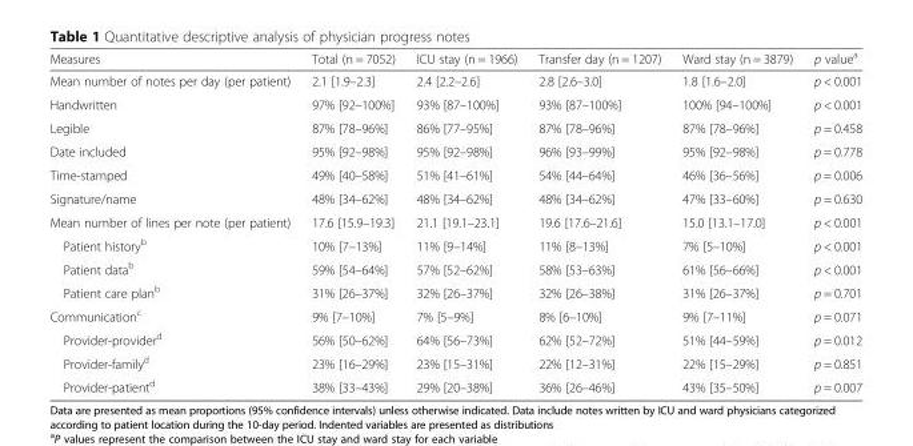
<table><thead><tr><td>Measures</td><td>Total (n = 7052)</td><td>ICU stay (n = 1966)</td><td>Transfer day (n = 1207)</td><td>Ward stay (n = 3879)</td><td>p value<sup>a</sup></td></tr></thead><tbody><tr><td>Mean number of notes per day (per patient)</td><td>2.1 [1.9–2.3]</td><td>2.4 [2.2–2.6]</td><td>2.8 [2.6–3.0]</td><td>1.8 [1.6–2.0]</td><td>p &lt; 0.001</td></tr><tr><td>Handwritten</td><td>97% [92–100%]</td><td>93% [87–100%]</td><td>93% [87–100%]</td><td>100% [94–100%]</td><td>p &lt; 0.001</td></tr><tr><td>Legible</td><td>87% [78–96%]</td><td>86% [77–95%]</td><td>87% [78–96%]</td><td>87% [78–96%]</td><td>p = 0.458</td></tr><tr><td>Date included</td><td>95% [92–98%]</td><td>95% [92–98%]</td><td>96% [93–99%]</td><td>95% [92–98%]</td><td>p = 0.778</td></tr><tr><td>Time-stamped</td><td>49% [40–58%]</td><td>51% [41–61%]</td><td>54% [44–64%]</td><td>46% [36–56%]</td><td>p = 0.006</td></tr><tr><td>Signature/name</td><td>48% [34–62%]</td><td>48% [34–62%]</td><td>48% [34–62%]</td><td>47% [33–60%]</td><td>p = 0.630</td></tr><tr><td>Mean number of lines per note (per patient)</td><td>17.6 [15.9–19.3]</td><td>21.1 [19.1–23.1]</td><td>19.6 [17.6–21.6]</td><td>15.0 [13.1–17.0]</td><td>p &lt; 0.001</td></tr><tr><td>Patient historyb</td><td>10% [7–13%]</td><td>11% [9–14%]</td><td>11% [8–13%]</td><td>7% [5–10%]</td><td>p &lt; 0.001</td></tr><tr><td>Patient datab</td><td>59% [54–64%]</td><td>57% [52–62%]</td><td>58% [53–63%]</td><td>61% [56–66%]</td><td>p &lt; 0.001</td></tr><tr><td>Patient care planb</td><td>31% [26–37%]</td><td>32% [26–37%]</td><td>32% [26–38%]</td><td>31% [26–37%]</td><td>p = 0.701</td></tr><tr><td>Communication<sup>c</sup></td><td>9% [7–10%]</td><td>7% [5–9%]</td><td>8% [6–10%]</td><td>9% [7–11%]</td><td>p = 0.071</td></tr><tr><td>Provider-providerd</td><td>56% [50–62%]</td><td>64% [56–73%]</td><td>62% [52–72%]</td><td>51% [44–59%]</td><td>p = 0.012</td></tr><tr><td>Provider-familyd</td><td>23% [16–29%]</td><td>23% [15–31%]</td><td>22% [12–31%]</td><td>22% [15–29%]</td><td>p = 0.851</td></tr><tr><td>Provider-patientd</td><td>38% [33–43%]</td><td>29% [20–38%]</td><td>36% [26–46%]</td><td>43% [35–50%]</td><td>p = 0.007</td></tr></tbody></table>